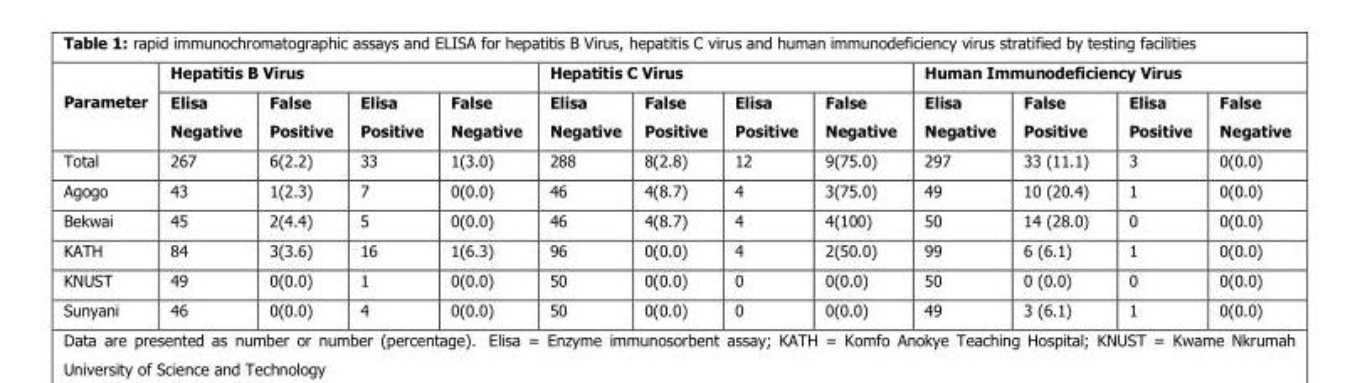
<table><thead><tr><td rowspan="2">Parameter</td><td colspan="4">Hepatitis B Virus</td><td colspan="4">Hepatitis C Virus</td><td colspan="4">Human Immunodeficiency Virus</td></tr><tr><td>Elisa Negative</td><td>False Positive</td><td>Elisa Positive</td><td>False Negative</td><td>Elisa Negative</td><td>False Positive</td><td>Elisa Positive</td><td>False Negative</td><td>Elisa Negative</td><td>False Positive</td><td>Elisa Positive</td><td>False Negative</td></tr></thead><tbody><tr><td>Total</td><td>267</td><td>6(2.2)</td><td>33</td><td>1(3.0)</td><td>288</td><td>8(2.8)</td><td>12</td><td>9(75.0)</td><td>297</td><td>33 (11.1)</td><td>3</td><td>0(0.0)</td></tr><tr><td>Agogo</td><td>43</td><td>1(2.3)</td><td>7</td><td>0(0.0)</td><td>46</td><td>4(8.7)</td><td>4</td><td>3(75.0)</td><td>49</td><td>10 (20.4)</td><td>1</td><td>0(0.0)</td></tr><tr><td>Bekwai</td><td>45</td><td>2(4.4)</td><td>5</td><td>0(0.0)</td><td>46</td><td>4(8.7)</td><td>4</td><td>4(100)</td><td>50</td><td>14 (28.0)</td><td>0</td><td>0(0.0)</td></tr><tr><td>KATH</td><td>84</td><td>3(3.6)</td><td>16</td><td>1(6.3)</td><td>96</td><td>0(0.0)</td><td>4</td><td>2(50.0)</td><td>99</td><td>6 (6.1)</td><td>1</td><td>0(0.0)</td></tr><tr><td>KNUST</td><td>49</td><td>0(0.0)</td><td>1</td><td>0(0.0)</td><td>50</td><td>0(0.0)</td><td>0</td><td>0(0.0)</td><td>50</td><td>0 (0.0)</td><td>0</td><td>0(0.0)</td></tr><tr><td>Sunyani</td><td>46</td><td>0(0.0)</td><td>4</td><td>0(0.0)</td><td>50</td><td>0(0.0)</td><td>0</td><td>0(0.0)</td><td>49</td><td>3 (6.1)</td><td>1</td><td>0(0.0)</td></tr></tbody></table>